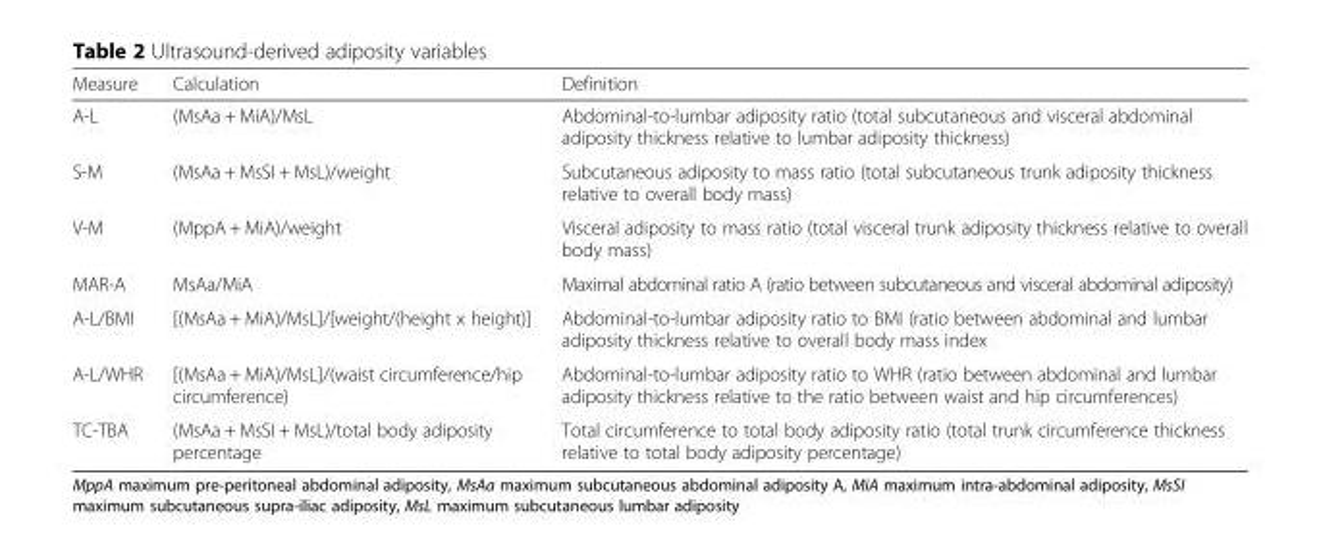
<table><thead><tr><td>Measure</td><td>Calculation</td><td>Definition</td></tr></thead><tbody><tr><td>A-L</td><td>(MsAa + MiA)/MsL</td><td>Abdominal-to-lumbar adiposity ratio (total subcutaneous and visceral abdominal adiposity thickness relative to lumbar adiposity thickness)</td></tr><tr><td>S-M</td><td>(MsAa + MsSI + MsL)/weight</td><td>Subcutaneous adiposity to mass ratio (total subcutaneous trunk adiposity thickness relative to overall body mass)</td></tr><tr><td>V-M</td><td>(MppA + MiA)/weight</td><td>Visceral adiposity to mass ratio (total visceral trunk adiposity thickness relative to overall body mass)</td></tr><tr><td>MAR-A</td><td>MsAa/MiA</td><td>Maximal abdominal ratio A (ratio between subcutaneous and visceral abdominal adiposity)</td></tr><tr><td>A-L/BMI</td><td>[(MsAa + MiA)/MsL]/[weight/(height x height)]</td><td>Abdominal-to-lumbar adiposity ratio to BMI (ratio between abdominal and lumbar adiposity thickness relative to overall body mass index</td></tr><tr><td>A-L/WHR</td><td>[(MsAa + MiA)/MsL]/(waist circumference/hip circumference)</td><td>Abdominal-to-lumbar adiposity ratio to WHR (ratio between abdominal and lumbar adiposity thickness relative to the ratio between waist and hip circumferences)</td></tr><tr><td>TC-TBA</td><td>(MsAa + MsSI + MsL)/total body adiposity percentage</td><td>Total circumference to total body adiposity ratio (total trunk circumference thickness relative to total body adiposity percentage)</td></tr></tbody></table>